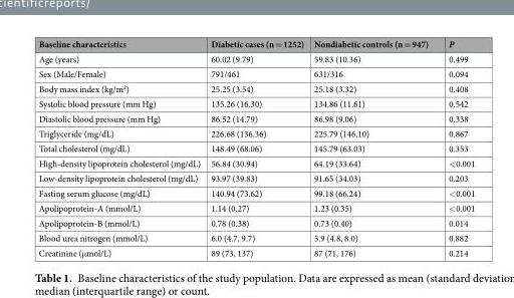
<table><thead><tr><td>Baseline characteristics</td><td>Diabetic cases (n = 1252)</td><td>Nondiabetic controls (n = 947)</td><td>P</td></tr></thead><tbody><tr><td>Age (years)</td><td>60.02 (9.79)</td><td>59.83 (10.36)</td><td>0.499</td></tr><tr><td>Sex (Male/Female)</td><td>791/461</td><td>631/316</td><td>0.094</td></tr><tr><td>Body mass index (kg/m<sup>2</sup>)</td><td>25.25 (3.54)</td><td>25.18 (3.32)</td><td>0.408</td></tr><tr><td>Systolic blood pressure (mm Hg)</td><td>135.26 (16.30)</td><td>134.86 (11.61)</td><td>0.542</td></tr><tr><td>Diastolic blood pressure (mm Hg)</td><td>86.52 (14.79)</td><td>86.98 (9.06)</td><td>0.338</td></tr><tr><td>Triglyceride (mg/dL)</td><td>226.68 (136.36)</td><td>225.79 (146.10)</td><td>0.867</td></tr><tr><td>Total cholesterol (mg/dL)</td><td>148.49 (68.06)</td><td>145.79 (63.03)</td><td>0.353</td></tr><tr><td>High-density lipoprotein cholesterol (mg/dL)</td><td>56.84 (30.94)</td><td>64.19 (33.64)</td><td>&lt;0.001</td></tr><tr><td>Low-density lipoprotein cholesterol (mg/dL)</td><td>93.97 (39.83)</td><td>91.65 (34.03)</td><td>0.203</td></tr><tr><td>Fasting serum glucose (mg/dL)</td><td>140.94 (73.62)</td><td>99.18 (66.24)</td><td>&lt;0.001</td></tr><tr><td>Apolipoprotein-A (mmol/L)</td><td>1.14 (0.27)</td><td>1.23 (0.35)</td><td>&lt;0.001</td></tr><tr><td>Apolipoprotein-B (mmol/L)</td><td>0.78 (0.38)</td><td>0.73 (0.40)</td><td>0.014</td></tr><tr><td>Blood urea nitrogen (mmol/L)</td><td>6.0 (4.7, 9.7)</td><td>5.9 (4.8, 8.0)</td><td>0.882</td></tr><tr><td>Creatinine (μmol/L)</td><td>89 (73, 137)</td><td>87 (71, 176)</td><td>0.214</td></tr></tbody></table>